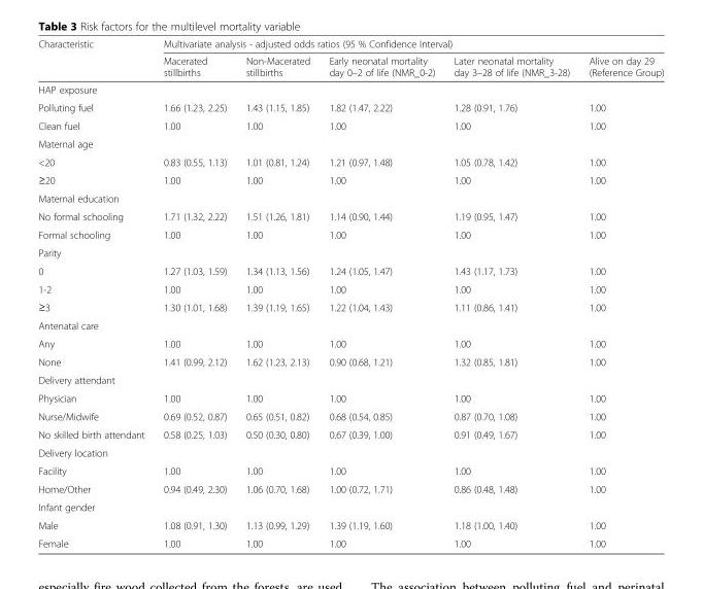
<table><thead><tr><td rowspan="2">Characteristic</td><td colspan="5">Multivariate analysis - adjusted odds ratios (95 % Confidence Interval)</td></tr><tr><td>Macerated stillbirths</td><td>Non-Macerated stillbirths</td><td>Early neonatal mortality day 0–2 of life (NMR_0-2)</td><td>Later neonatal mortality day 3–28 of life (NMR_3-28)</td><td>Alive on day 29 (Reference Group)</td></tr></thead><tbody><tr><td colspan="6">HAP exposure</td></tr><tr><td>Polluting fuel</td><td>1.66 (1.23, 2.25)</td><td>1.43 (1.15, 1.85)</td><td>1.82 (1.47, 2.22)</td><td>1.28 (0.91, 1.76)</td><td>1.00</td></tr><tr><td>Clean fuel</td><td>1.00</td><td>1.00</td><td>1.00</td><td>1.00</td><td>1.00</td></tr><tr><td colspan="6">Maternal age</td></tr><tr><td>&lt;20</td><td>0.83 (0.55, 1.13)</td><td>1.01 (0.81, 1.24)</td><td>1.21 (0.97, 1.48)</td><td>1.05 (0.78, 1.42)</td><td>1.00</td></tr><tr><td>≥20</td><td>1.00</td><td>1.00</td><td>1.00</td><td>1.00</td><td>1.00</td></tr><tr><td colspan="6">Maternal education</td></tr><tr><td>No formal schooling</td><td>1.71 (1.32, 2.22)</td><td>1.51 (1.26, 1.81)</td><td>1.14 (0.90, 1.44)</td><td>1.19 (0.95, 1.47)</td><td>1.00</td></tr><tr><td>Formal schooling</td><td>1.00</td><td>1.00</td><td>1.00</td><td>1.00</td><td>1.00</td></tr><tr><td colspan="6">Parity</td></tr><tr><td>0</td><td>1.27 (1.03, 1.59)</td><td>1.34 (1.13, 1.56)</td><td>1.24 (1.05, 1.47)</td><td>1.43 (1.17, 1.73)</td><td>1.00</td></tr><tr><td>1-2</td><td>1.00</td><td>1.00</td><td>1.00</td><td>1.00</td><td>1.00</td></tr><tr><td>≥3</td><td>1.30 (1.01, 1.68)</td><td>1.39 (1.19, 1.65)</td><td>1.22 (1.04, 1.43)</td><td>1.11 (0.86, 1.41)</td><td>1.00</td></tr><tr><td colspan="6">Antenatal care</td></tr><tr><td>Any</td><td>1.00</td><td>1.00</td><td>1.00</td><td>1.00</td><td>1.00</td></tr><tr><td>None</td><td>1.41 (0.99, 2.12)</td><td>1.62 (1.23, 2.13)</td><td>0.90 (0.68, 1.21)</td><td>1.32 (0.85, 1.81)</td><td>1.00</td></tr><tr><td colspan="6">Delivery attendant</td></tr><tr><td>Physician</td><td>1.00</td><td>1.00</td><td>1.00</td><td>1.00</td><td>1.00</td></tr><tr><td>Nurse/Midwife</td><td>0.69 (0.52, 0.87)</td><td>0.65 (0.51, 0.82)</td><td>0.68 (0.54, 0.85)</td><td>0.87 (0.70, 1.08)</td><td>1.00</td></tr><tr><td>No skilled birth attendant</td><td>0.58 (0.25, 1.03)</td><td>0.50 (0.30, 0.80)</td><td>0.67 (0.39, 1.00)</td><td>0.91 (0.49, 1.67)</td><td>1.00</td></tr><tr><td colspan="6">Delivery location</td></tr><tr><td>Facility</td><td>1.00</td><td>1.00</td><td>1.00</td><td>1.00</td><td>1.00</td></tr><tr><td>Home/Other</td><td>0.94 (0.49, 2.30)</td><td>1.06 (0.70, 1.68)</td><td>1.00 (0.72, 1.71)</td><td>0.86 (0.48, 1.48)</td><td>1.00</td></tr><tr><td colspan="6">Infant gender</td></tr><tr><td>Male</td><td>1.08 (0.91, 1.30)</td><td>1.13 (0.99, 1.29)</td><td>1.39 (1.19, 1.60)</td><td>1.18 (1.00, 1.40)</td><td>1.00</td></tr><tr><td>Female</td><td>1.00</td><td>1.00</td><td>1.00</td><td>1.00</td><td>1.00</td></tr></tbody></table>